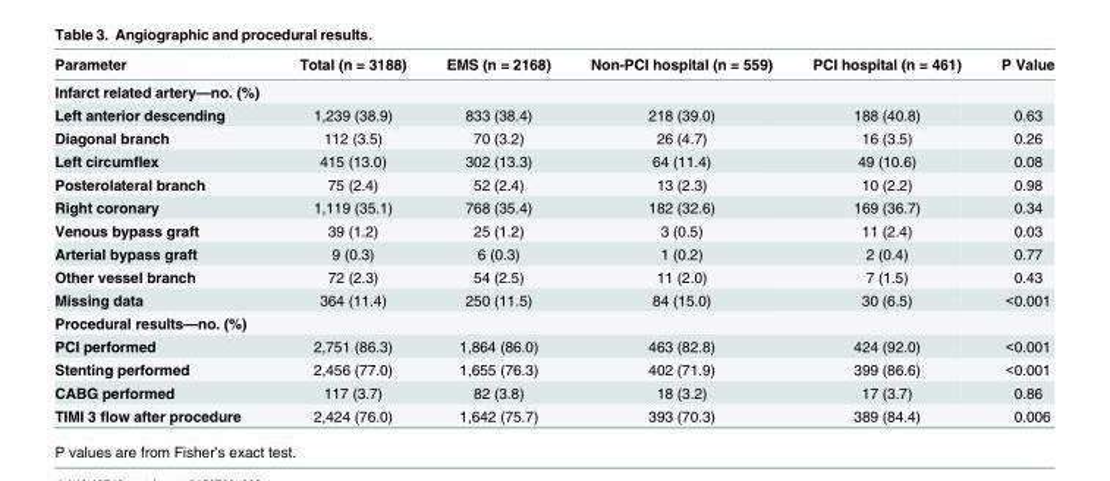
<table><thead><tr><td>Parameter</td><td>Total (n = 3188)</td><td>EMS (n = 2168)</td><td>Non-PCI hospital (n = 559)</td><td>PCI hospital (n = 461)</td><td>P Value</td></tr></thead><tbody><tr><td colspan="6">Infarct related artery—no. (%)</td></tr><tr><td>Left anterior descending</td><td>1,239 (38.9)</td><td>833 (38.4)</td><td>218 (39.0)</td><td>188 (40.8)</td><td>0.63</td></tr><tr><td>Diagonal branch</td><td>112 (3.5)</td><td>70 (3.2)</td><td>26 (4.7)</td><td>16 (3.5)</td><td>0.26</td></tr><tr><td>Left circumflex</td><td>415 (13.0)</td><td>302 (13.3)</td><td>64 (11.4)</td><td>49 (10.6)</td><td>0.08</td></tr><tr><td>Posterolateral branch</td><td>75 (2.4)</td><td>52 (2.4)</td><td>13 (2.3)</td><td>10 (2.2)</td><td>0.98</td></tr><tr><td>Right coronary</td><td>1,119 (35.1)</td><td>768 (35.4)</td><td>182 (32.6)</td><td>169 (36.7)</td><td>0.34</td></tr><tr><td>Venous bypass graft</td><td>39 (1.2)</td><td>25 (1.2)</td><td>3 (0.5)</td><td>11 (2.4)</td><td>0.03</td></tr><tr><td>Arterial bypass graft</td><td>9 (0.3)</td><td>6 (0.3)</td><td>1 (0.2)</td><td>2 (0.4)</td><td>0.77</td></tr><tr><td>Other vessel branch</td><td>72 (2.3)</td><td>54 (2.5)</td><td>11 (2.0)</td><td>7 (1.5)</td><td>0.43</td></tr><tr><td>Missing data</td><td>364 (11.4)</td><td>250 (11.5)</td><td>84 (15.0)</td><td>30 (6.5)</td><td>&lt;0.001</td></tr><tr><td colspan="6">Procedural results—no. (%)</td></tr><tr><td>PCI performed</td><td>2,751 (86.3)</td><td>1,864 (86.0)</td><td>463 (82.8)</td><td>424 (92.0)</td><td>&lt;0.001</td></tr><tr><td>Stenting performed</td><td>2,456 (77.0)</td><td>1,655 (76.3)</td><td>402 (71.9)</td><td>399 (86.6)</td><td>&lt;0.001</td></tr><tr><td>CABG performed</td><td>117 (3.7)</td><td>82 (3.8)</td><td>18 (3.2)</td><td>17 (3.7)</td><td>0.86</td></tr><tr><td>TIMI 3 flow after procedure</td><td>2,424 (76.0)</td><td>1,642 (75.7)</td><td>393 (70.3)</td><td>389 (84.4)</td><td>0.006</td></tr></tbody></table>